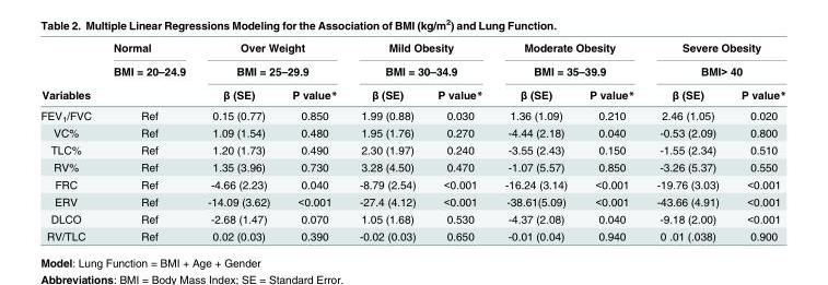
<table><thead><tr><td rowspan="3">Variables</td><td rowspan="3">Normal BMI = 20–24.9</td><td rowspan="2" colspan="2">Over Weight BMI = 25–29.9</td><td rowspan="2" colspan="2">Mild Obesity BMI = 30–34.9</td><td rowspan="2" colspan="2">Moderate Obesity BMI = 35–39.9</td><td rowspan="2" colspan="2">Severe Obesity BMI&gt; 40</td></tr><tr></tr><tr><td>β (SE)</td><td>P value*</td><td>β (SE)</td><td>P value*</td><td>β (SE)</td><td>P value*</td><td>β (SE)</td><td>P value*</td></tr></thead><tbody><tr><td>FEV<sub>1</sub>/FVC</td><td>Ref</td><td>0.15 (0.77)</td><td>0.850</td><td>1.99 (0.88)</td><td>0.030</td><td>1.36 (1.09)</td><td>0.210</td><td>2.46 (1.05)</td><td>0.020</td></tr><tr><td>VC%</td><td>Ref</td><td>1.09 (1.54)</td><td>0.480</td><td>1.95 (1.76)</td><td>0.270</td><td>-4.44 (2.18)</td><td>0.040</td><td>-0.53 (2.09)</td><td>0.800</td></tr><tr><td>TLC%</td><td>Ref</td><td>1.20 (1.73)</td><td>0.490</td><td>2.30 (1.97)</td><td>0.240</td><td>-3.55 (2.43)</td><td>0.150</td><td>-1.55 (2.34)</td><td>0.510</td></tr><tr><td>RV%</td><td>Ref</td><td>1.35 (3.96)</td><td>0.730</td><td>3.28 (4.50)</td><td>0.470</td><td>-1.07 (5.57)</td><td>0.850</td><td>-3.26 (5.37)</td><td>0.550</td></tr><tr><td>FRC</td><td>Ref</td><td>-4.66 (2.23)</td><td>0.040</td><td>-8.79 (2.54)</td><td>&lt;0.001</td><td>-16.24 (3.14)</td><td>&lt;0.001</td><td>-19.76 (3.03)</td><td>&lt;0.001</td></tr><tr><td>ERV</td><td>Ref</td><td>-14.09 (3.62)</td><td>&lt;0.001</td><td>-27.4 (4.12)</td><td>&lt;0.001</td><td>-38.61(5.09)</td><td>&lt;0.001</td><td>-43.66 (4.91)</td><td>&lt;0.001</td></tr><tr><td>DLCO</td><td>Ref</td><td>-2.68 (1.47)</td><td>0.070</td><td>1.05 (1.68)</td><td>0.530</td><td>-4.37 (2.08)</td><td>0.040</td><td>-9.18 (2.00)</td><td>&lt;0.001</td></tr><tr><td>RV/TLC</td><td>Ref</td><td>0.02 (0.03)</td><td>0.390</td><td>-0.02 (0.03)</td><td>0.650</td><td>-0.01 (0.04)</td><td>0.940</td><td>0 .01 (.038)</td><td>0.900</td></tr></tbody></table>